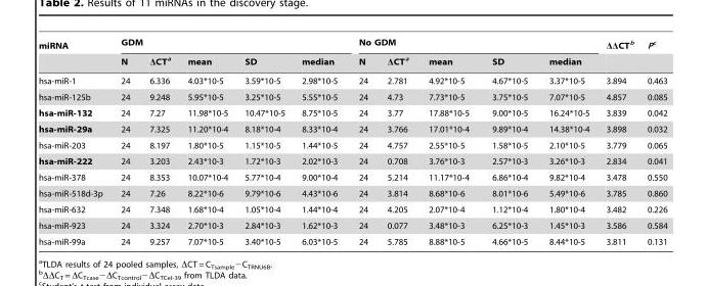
<table><thead><tr><td rowspan="2">miRNA</td><td colspan="5">GDM</td><td colspan="5">No GDM</td><td rowspan="2">ΔΔCT<sup>b</sup></td><td rowspan="2">Pc</td></tr><tr><td>N</td><td>ΔCT<sup>a</sup></td><td>mean</td><td>SD</td><td>median</td><td>N</td><td>ΔCT<sup>a</sup></td><td>mean</td><td>SD</td><td>median</td></tr></thead><tbody><tr><td>hsa-miR-1</td><td>24</td><td>6.336</td><td>4.03*10-5</td><td>3.59*10-5</td><td>2.98*10-5</td><td>24</td><td>2.781</td><td>4.92*10-5</td><td>4.67*10-5</td><td>3.37*10-5</td><td>3.894</td><td>0.463</td></tr><tr><td>hsa-miR-125b</td><td>24</td><td>9.248</td><td>5.95*10-5</td><td>3.25*10-5</td><td>5.55*10-5</td><td>24</td><td>4.73</td><td>7.73*10-5</td><td>3.75*10-5</td><td>7.07*10-5</td><td>4.857</td><td>0.085</td></tr><tr><td>hsa-miR-132</td><td>24</td><td>7.27</td><td>11.98*10-5</td><td>10.47*10-5</td><td>8.75*10-5</td><td>24</td><td>3.77</td><td>17.88*10-5</td><td>9.00*10-5</td><td>16.24*10-5</td><td>3.839</td><td>0.042</td></tr><tr><td>hsa-miR-29a</td><td>24</td><td>7.325</td><td>11.20*10-4</td><td>8.18*10-4</td><td>8.33*10-4</td><td>24</td><td>3.766</td><td>17.01*10-4</td><td>9.89*10-4</td><td>14.38*10-4</td><td>3.898</td><td>0.032</td></tr><tr><td>hsa-miR-203</td><td>24</td><td>8.197</td><td>1.80*10-5</td><td>1.15*10-5</td><td>1.44*10-5</td><td>24</td><td>4.757</td><td>2.55*10-5</td><td>1.58*10-5</td><td>2.10*10-5</td><td>3.779</td><td>0.065</td></tr><tr><td>hsa-miR-222</td><td>24</td><td>3.203</td><td>2.43*10-3</td><td>1.72*10-3</td><td>2.02*10-3</td><td>24</td><td>0.708</td><td>3.76*10-3</td><td>2.57*10-3</td><td>3.26*10-3</td><td>2.834</td><td>0.041</td></tr><tr><td>hsa-miR-378</td><td>24</td><td>8.353</td><td>10.07*10-4</td><td>5.77*10-4</td><td>9.00*10-4</td><td>24</td><td>5.214</td><td>11.17*10-4</td><td>6.86*10-4</td><td>9.82*10-4</td><td>3.478</td><td>0.550</td></tr><tr><td>hsa-miR-518d-3p</td><td>24</td><td>7.26</td><td>8.22*10-6</td><td>9.79*10-6</td><td>4.43*10-6</td><td>24</td><td>3.814</td><td>8.68*10-6</td><td>8.01*10-6</td><td>5.49*10-6</td><td>3.785</td><td>0.860</td></tr><tr><td>hsa-miR-632</td><td>24</td><td>7.348</td><td>1.68*10-4</td><td>1.05*10-4</td><td>1.44*10-4</td><td>24</td><td>4.205</td><td>2.07*10-4</td><td>1.12*10-4</td><td>1.80*10-4</td><td>3.482</td><td>0.226</td></tr><tr><td>hsa-miR-923</td><td>24</td><td>3.324</td><td>2.70*10-3</td><td>2.84*10-3</td><td>1.62*10-3</td><td>24</td><td>0.077</td><td>3.48*10-3</td><td>6.25*10-3</td><td>1.45*10-3</td><td>3.586</td><td>0.584</td></tr><tr><td>hsa-miR-99a</td><td>24</td><td>9.257</td><td>7.07*10-5</td><td>3.40*10-5</td><td>6.03*10-5</td><td>24</td><td>5.785</td><td>8.88*10-5</td><td>4.66*10-5</td><td>8.44*10-5</td><td>3.811</td><td>0.131</td></tr></tbody></table>